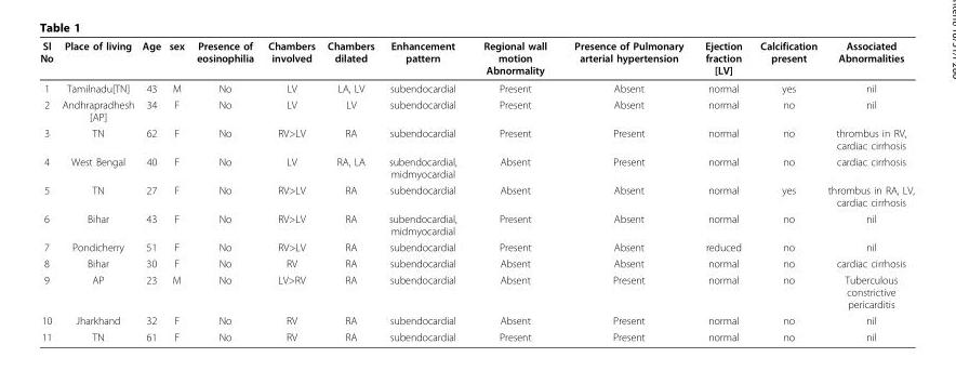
<table><thead><tr><td>Sl No</td><td>Place of living</td><td>Age</td><td>sex</td><td>Presence of eosinophilia</td><td>Chambers involved</td><td>Chambers dilated</td><td>Enhancement pattern</td><td>Regional wall motion Abnormality</td><td>Presence of Pulmonary arterial hypertension</td><td>Ejection fraction [LV]</td><td>Calcification present</td><td>Associated Abnormalities</td></tr></thead><tbody><tr><td>1</td><td>Tamilnadu[TN]</td><td>43</td><td>M</td><td>No</td><td>LV</td><td>LA, LV</td><td>subendocardial</td><td>Present</td><td>Absent</td><td>normal</td><td>yes</td><td>nil</td></tr><tr><td>2</td><td>Andhrapradhesh [AP]</td><td>34</td><td>F</td><td>No</td><td>LV</td><td>LV</td><td>subendocardial</td><td>Present</td><td>Absent</td><td>normal</td><td>no</td><td>nil</td></tr><tr><td>3</td><td>TN</td><td>62</td><td>F</td><td>No</td><td>RV&gt;LV</td><td>RA</td><td>subendocardial</td><td>Present</td><td>Present</td><td>normal</td><td>no</td><td>thrombus in RV, cardiac cirrhosis</td></tr><tr><td>4</td><td>West Bengal</td><td>40</td><td>F</td><td>No</td><td>LV</td><td>RA, LA</td><td>subendocardial, midmyocardial</td><td>Absent</td><td>Present</td><td>normal</td><td>no</td><td>cardiac cirrhosis</td></tr><tr><td>5</td><td>TN</td><td>27</td><td>F</td><td>No</td><td>RV&gt;LV</td><td>RA</td><td>subendocardial</td><td>Absent</td><td>Absent</td><td>normal</td><td>yes</td><td>thrombus in RA, LV, cardiac cirrhosis</td></tr><tr><td>6</td><td>Bihar</td><td>43</td><td>F</td><td>No</td><td>RV&gt;LV</td><td>RA</td><td>subendocardial, midmyocardial</td><td>Present</td><td>Absent</td><td>normal</td><td>no</td><td>nil</td></tr><tr><td>7</td><td>Pondicherry</td><td>51</td><td>F</td><td>No</td><td>RV&gt;LV</td><td>RA</td><td>subendocardial</td><td>Present</td><td>Absent</td><td>reduced</td><td>no</td><td>nil</td></tr><tr><td>8</td><td>Bihar</td><td>30</td><td>F</td><td>No</td><td>RV</td><td>RA</td><td>subendocardial</td><td>Absent</td><td>Absent</td><td>normal</td><td>no</td><td>cardiac cirrhosis</td></tr><tr><td>9</td><td>AP</td><td>23</td><td>M</td><td>No</td><td>LV&gt;RV</td><td>RA</td><td>subendocardial</td><td>Absent</td><td>Present</td><td>normal</td><td>no</td><td>Tuberculous constrictive pericarditis</td></tr><tr><td>10</td><td>Jharkhand</td><td>32</td><td>F</td><td>No</td><td>RV</td><td>RA</td><td>subendocardial</td><td>Absent</td><td>Present</td><td>normal</td><td>no</td><td>nil</td></tr><tr><td>11</td><td>TN</td><td>61</td><td>F</td><td>No</td><td>RV</td><td>RA</td><td>subendocardial</td><td>Present</td><td>Present</td><td>normal</td><td>no</td><td>nil</td></tr></tbody></table>